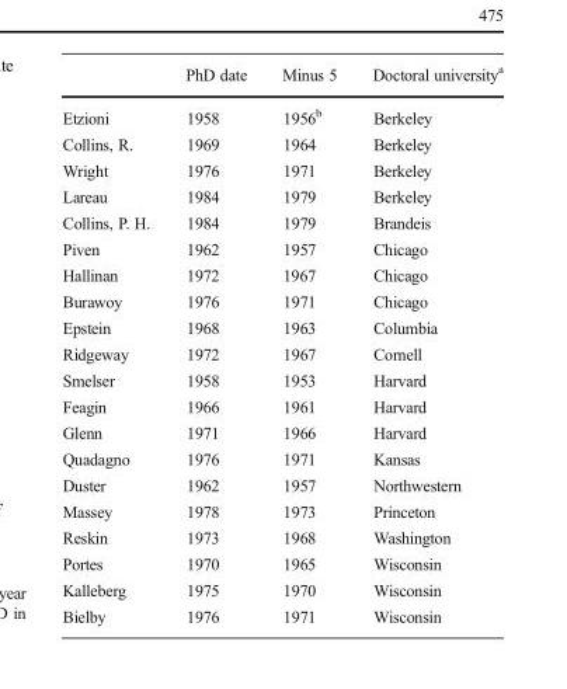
<table><thead><tr><td></td><td>PhD date</td><td>Minus 5</td><td>Doctoral university<sup>a</sup></td></tr></thead><tbody><tr><td>Etzioni</td><td>1958</td><td>1956<sup>b</sup></td><td>Berkeley</td></tr><tr><td>Collins, R.</td><td>1969</td><td>1964</td><td>Berkeley</td></tr><tr><td>Wright</td><td>1976</td><td>1971</td><td>Berkeley</td></tr><tr><td>Lareau</td><td>1984</td><td>1979</td><td>Berkeley</td></tr><tr><td>Collins, P. H.</td><td>1984</td><td>1979</td><td>Brandeis</td></tr><tr><td>Piven</td><td>1962</td><td>1957</td><td>Chicago</td></tr><tr><td>Hallinan</td><td>1972</td><td>1967</td><td>Chicago</td></tr><tr><td>Burawoy</td><td>1976</td><td>1971</td><td>Chicago</td></tr><tr><td>Epstein</td><td>1968</td><td>1963</td><td>Columbia</td></tr><tr><td>Ridgeway</td><td>1972</td><td>1967</td><td>Cornell</td></tr><tr><td>Smelser</td><td>1958</td><td>1953</td><td>Harvard</td></tr><tr><td>Feagin</td><td>1966</td><td>1961</td><td>Harvard</td></tr><tr><td>Glenn</td><td>1971</td><td>1966</td><td>Harvard</td></tr><tr><td>Quadagno</td><td>1976</td><td>1971</td><td>Kansas</td></tr><tr><td>Duster</td><td>1962</td><td>1957</td><td>Northwestern</td></tr><tr><td>Massey</td><td>1978</td><td>1973</td><td>Princeton</td></tr><tr><td>Reskin</td><td>1973</td><td>1968</td><td>Washington</td></tr><tr><td>Portes</td><td>1970</td><td>1965</td><td>Wisconsin</td></tr><tr><td>Kalleberg</td><td>1975</td><td>1970</td><td>Wisconsin</td></tr><tr><td>Bielby</td><td>1976</td><td>1971</td><td>Wisconsin</td></tr></tbody></table>